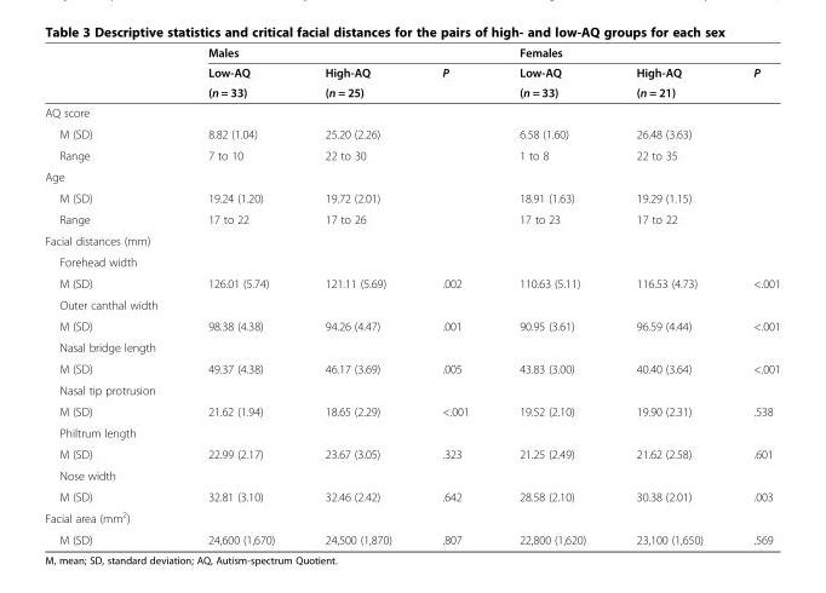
<table><thead><tr><td rowspan="3"></td><td colspan="3">Males</td><td colspan="3">Females</td></tr><tr><td rowspan="2">Low-AQ (n = 33)</td><td rowspan="2">High-AQ (n = 25)</td><td rowspan="2">P</td><td rowspan="2">Low-AQ (n = 33)</td><td rowspan="2">High-AQ (n = 21)</td><td rowspan="2">P</td></tr><tr></tr></thead><tbody><tr><td colspan="7">AQ score</td></tr><tr><td>M (SD)</td><td>8.82 (1.04)</td><td>25.20 (2.26)</td><td></td><td>6.58 (1.60)</td><td>26.48 (3.63)</td><td></td></tr><tr><td>Range</td><td>7 to 10</td><td>22 to 30</td><td></td><td>1 to 8</td><td>22 to 35</td><td></td></tr><tr><td colspan="7">Age</td></tr><tr><td>M (SD)</td><td>19.24 (1.20)</td><td>19.72 (2.01)</td><td></td><td>18.91 (1.63)</td><td>19.29 (1.15)</td><td></td></tr><tr><td>Range</td><td>17 to 22</td><td>17 to 26</td><td></td><td>17 to 23</td><td>17 to 22</td><td></td></tr><tr><td colspan="7">Facial distances (mm)</td></tr><tr><td colspan="7">Forehead width</td></tr><tr><td>M (SD)</td><td>126.01 (5.74)</td><td>121.11 (5.69)</td><td>.002</td><td>110.63 (5.11)</td><td>116.53 (4.73)</td><td>&lt;.001</td></tr><tr><td colspan="7">Outer canthal width</td></tr><tr><td>M (SD)</td><td>98.38 (4.38)</td><td>94.26 (4.47)</td><td>.001</td><td>90.95 (3.61)</td><td>96.59 (4.44)</td><td>&lt;.001</td></tr><tr><td colspan="7">Nasal bridge length</td></tr><tr><td>M (SD)</td><td>49.37 (4.38)</td><td>46.17 (3.69)</td><td>.005</td><td>43.83 (3.00)</td><td>40.40 (3.64)</td><td>&lt;.001</td></tr><tr><td colspan="7">Nasal tip protrusion</td></tr><tr><td>M (SD)</td><td>21.62 (1.94)</td><td>18.65 (2.29)</td><td>&lt;.001</td><td>19.52 (2.10)</td><td>19.90 (2.31)</td><td>.538</td></tr><tr><td colspan="7">Philtrum length</td></tr><tr><td>M (SD)</td><td>22.99 (2.17)</td><td>23.67 (3.05)</td><td>.323</td><td>21.25 (2.49)</td><td>21.62 (2.58)</td><td>.601</td></tr><tr><td colspan="7">Nose width</td></tr><tr><td>M (SD)</td><td>32.81 (3.10)</td><td>32.46 (2.42)</td><td>.642</td><td>28.58 (2.10)</td><td>30.38 (2.01)</td><td>.003</td></tr><tr><td colspan="7">Facial area (mm<sup>2</sup>)</td></tr><tr><td>M (SD)</td><td>24,600 (1,670)</td><td>24,500 (1,870)</td><td>.807</td><td>22,800 (1,620)</td><td>23,100 (1,650)</td><td>.569</td></tr></tbody></table>